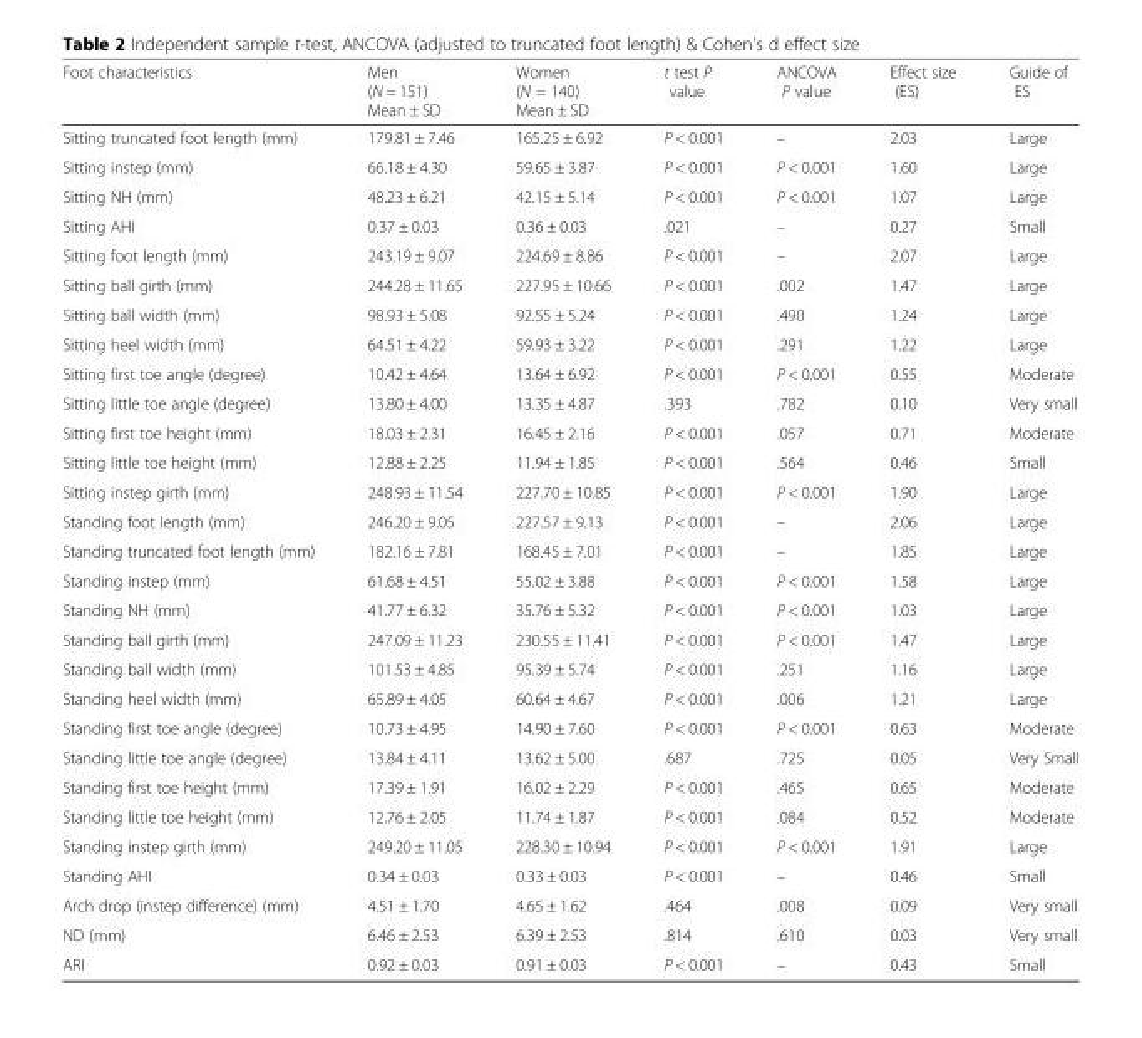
<table><thead><tr><td>Foot characteristics</td><td>Men (N = 151) Mean ± SD</td><td>Women (N = 140) Mean ± SD</td><td>t test P value</td><td>ANCOVA P value</td><td>Effect size (ES)</td><td>Guide of ES</td></tr></thead><tbody><tr><td>Sitting truncated foot length (mm)</td><td>179.81 ± 7.46</td><td>165.25 ± 6.92</td><td>P &lt; 0.001</td><td>–</td><td>2.03</td><td>Large</td></tr><tr><td>Sitting instep (mm)</td><td>66.18 ± 4.30</td><td>59.65 ± 3.87</td><td>P &lt; 0.001</td><td>P &lt; 0.001</td><td>1.60</td><td>Large</td></tr><tr><td>Sitting NH (mm)</td><td>48.23 ± 6.21</td><td>42.15 ± 5.14</td><td>P &lt; 0.001</td><td>P &lt; 0.001</td><td>1.07</td><td>Large</td></tr><tr><td>Sitting AHI</td><td>0.37 ± 0.03</td><td>0.36 ± 0.03</td><td>.021</td><td>–</td><td>0.27</td><td>Small</td></tr><tr><td>Sitting foot length (mm)</td><td>243.19 ± 9.07</td><td>224.69 ± 8.86</td><td>P &lt; 0.001</td><td>–</td><td>2.07</td><td>Large</td></tr><tr><td>Sitting ball girth (mm)</td><td>244.28 ± 11.65</td><td>227.95 ± 10.66</td><td>P &lt; 0.001</td><td>.002</td><td>1.47</td><td>Large</td></tr><tr><td>Sitting ball width (mm)</td><td>98.93 ± 5.08</td><td>92.55 ± 5.24</td><td>P &lt; 0.001</td><td>.490</td><td>1.24</td><td>Large</td></tr><tr><td>Sitting heel width (mm)</td><td>64.51 ± 4.22</td><td>59.93 ± 3.22</td><td>P &lt; 0.001</td><td>.291</td><td>1.22</td><td>Large</td></tr><tr><td>Sitting first toe angle (degree)</td><td>10.42 ± 4.64</td><td>13.64 ± 6.92</td><td>P &lt; 0.001</td><td>P &lt; 0.001</td><td>0.55</td><td>Moderate</td></tr><tr><td>Sitting little toe angle (degree)</td><td>13.80 ± 4.00</td><td>13.35 ± 4.87</td><td>.393</td><td>.782</td><td>0.10</td><td>Very small</td></tr><tr><td>Sitting first toe height (mm)</td><td>18.03 ± 2.31</td><td>16.45 ± 2.16</td><td>P &lt; 0.001</td><td>.057</td><td>0.71</td><td>Moderate</td></tr><tr><td>Sitting little toe height (mm)</td><td>12.88 ± 2.25</td><td>11.94 ± 1.85</td><td>P &lt; 0.001</td><td>.564</td><td>0.46</td><td>Small</td></tr><tr><td>Sitting instep girth (mm)</td><td>248.93 ± 11.54</td><td>227.70 ± 10.85</td><td>P &lt; 0.001</td><td>P &lt; 0.001</td><td>1.90</td><td>Large</td></tr><tr><td>Standing foot length (mm)</td><td>246.20 ± 9.05</td><td>227.57 ± 9.13</td><td>P &lt; 0.001</td><td>–</td><td>2.06</td><td>Large</td></tr><tr><td>Standing truncated foot length (mm)</td><td>182.16 ± 7.81</td><td>168.45 ± 7.01</td><td>P &lt; 0.001</td><td>–</td><td>1.85</td><td>Large</td></tr><tr><td>Standing instep (mm)</td><td>61.68 ± 4.51</td><td>55.02 ± 3.88</td><td>P &lt; 0.001</td><td>P &lt; 0.001</td><td>1.58</td><td>Large</td></tr><tr><td>Standing NH (mm)</td><td>41.77 ± 6.32</td><td>35.76 ± 5.32</td><td>P &lt; 0.001</td><td>P &lt; 0.001</td><td>1.03</td><td>Large</td></tr><tr><td>Standing ball girth (mm)</td><td>247.09 ± 11.23</td><td>230.55 ± 11.41</td><td>P &lt; 0.001</td><td>P &lt; 0.001</td><td>1.47</td><td>Large</td></tr><tr><td>Standing ball width (mm)</td><td>101.53 ± 4.85</td><td>95.39 ± 5.74</td><td>P &lt; 0.001</td><td>.251</td><td>1.16</td><td>Large</td></tr><tr><td>Standing heel width (mm)</td><td>65.89 ± 4.05</td><td>60.64 ± 4.67</td><td>P &lt; 0.001</td><td>.006</td><td>1.21</td><td>Large</td></tr><tr><td>Standing first toe angle (degree)</td><td>10.73 ± 4.95</td><td>14.90 ± 7.60</td><td>P &lt; 0.001</td><td>P &lt; 0.001</td><td>0.63</td><td>Moderate</td></tr><tr><td>Standing little toe angle (degree)</td><td>13.84 ± 4.11</td><td>13.62 ± 5.00</td><td>.687</td><td>.725</td><td>0.05</td><td>Very Small</td></tr><tr><td>Standing first toe height (mm)</td><td>17.39 ± 1.91</td><td>16.02 ± 2.29</td><td>P &lt; 0.001</td><td>.465</td><td>0.65</td><td>Moderate</td></tr><tr><td>Standing little toe height (mm)</td><td>12.76 ± 2.05</td><td>11.74 ± 1.87</td><td>P &lt; 0.001</td><td>.084</td><td>0.52</td><td>Moderate</td></tr><tr><td>Standing instep girth (mm)</td><td>249.20 ± 11.05</td><td>228.30 ± 10.94</td><td>P &lt; 0.001</td><td>P &lt; 0.001</td><td>1.91</td><td>Large</td></tr><tr><td>Standing AHI</td><td>0.34 ± 0.03</td><td>0.33 ± 0.03</td><td>P &lt; 0.001</td><td>–</td><td>0.46</td><td>Small</td></tr><tr><td>Arch drop (instep difference) (mm)</td><td>4.51 ± 1.70</td><td>4.65 ± 1.62</td><td>.464</td><td>.008</td><td>0.09</td><td>Very small</td></tr><tr><td>ND (mm)</td><td>6.46 ± 2.53</td><td>6.39 ± 2.53</td><td>.814</td><td>.610</td><td>0.03</td><td>Very small</td></tr><tr><td>ARI</td><td>0.92 ± 0.03</td><td>0.91 ± 0.03</td><td>P &lt; 0.001</td><td>–</td><td>0.43</td><td>Small</td></tr></tbody></table>